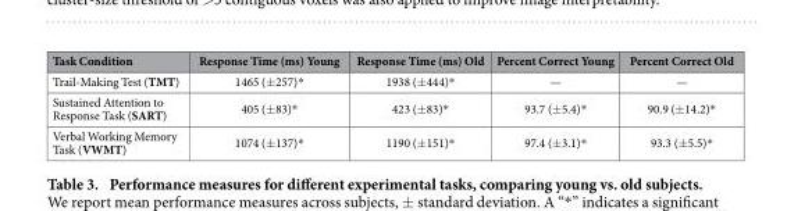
<table><thead><tr><td>Task Condition</td><td>Response Time (ms) Young</td><td>Response Time (ms) Old</td><td>Percent Correct Young</td><td>Percent Correct Old</td></tr></thead><tbody><tr><td>Trail-Making Test (TMT)</td><td>1465 (± 257)*</td><td>1938 (± 444)*</td><td>—</td><td>—</td></tr><tr><td>Sustained Attention to Response Task (SART)</td><td>405 (± 83)*</td><td>423 (± 83)*</td><td>93.7 (± 5.4)*</td><td>90.9 (± 14.2)*</td></tr><tr><td>Verbal Working Memory Task (VWMT)</td><td>1074 (± 137)*</td><td>1190 (± 151)*</td><td>97.4 (± 3.1)*</td><td>93.3 (± 5.5)*</td></tr></tbody></table>